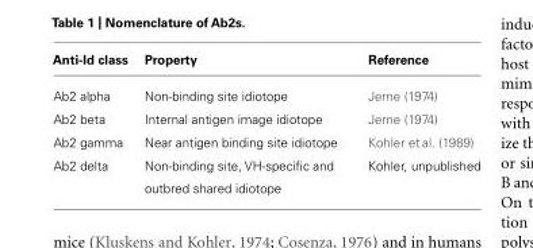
<table><thead><tr><td>Anti-Id class</td><td>Property</td><td>Reference</td></tr></thead><tbody><tr><td>Ab2 alpha</td><td>Non-binding site idiotope</td><td>Jerne (1974)</td></tr><tr><td>Ab2 beta</td><td>Internal antigen image idiotope</td><td>Jerne (1974)</td></tr><tr><td>Ab2 gamma</td><td>Near antigen binding site idiotope</td><td>Kohler et al. (1989)</td></tr><tr><td>Ab2 delta</td><td>Non-binding site, VH-specific and outbred shared idiotope</td><td>Kohler, unpublished</td></tr></tbody></table>